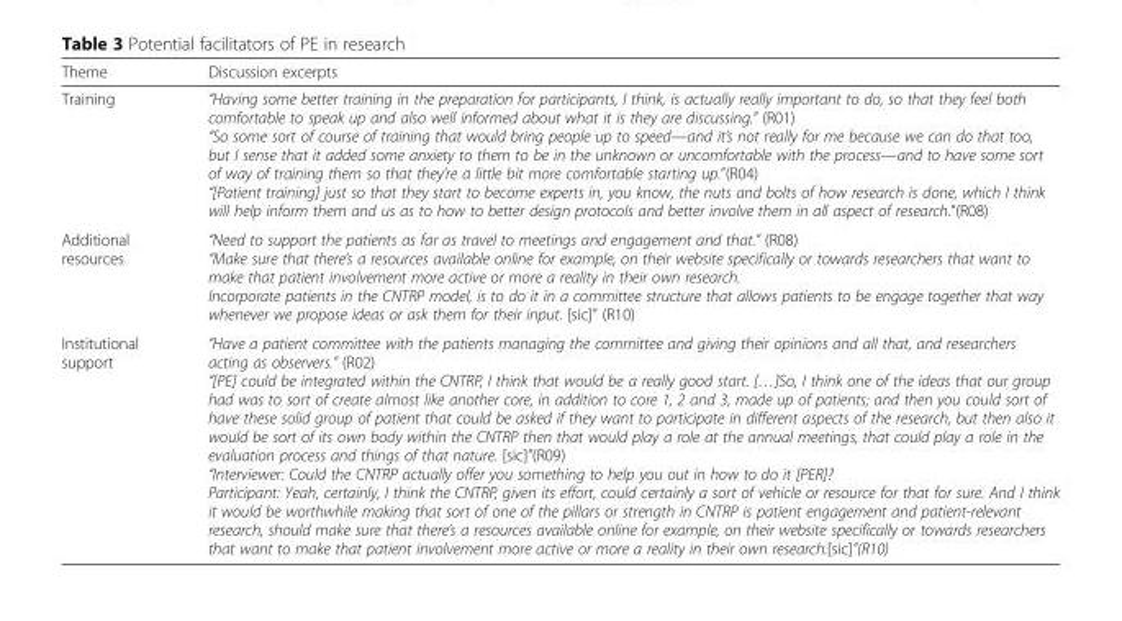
<table><thead><tr><td>Theme</td><td>Discussion excerpts</td></tr></thead><tbody><tr><td>Training</td><td>“Having some better training in the preparation for participants, I think, is actually really important to do, so that they feel both comfortable to speak up and also well informed about what it is they are discussing.” (R01) “So some sort of course of training that would bring people up to speed—and it’s not really for me because we can do that too, but I sense that it added some anxiety to them to be in the unknown or uncomfortable with the process—and to have some sort of way of training them so that they’re a little bit more comfortable starting up.”(R04) “[Patient training] just so that they start to become experts in, you know, the nuts and bolts of how research is done, which I think will help inform them and us as to how to better design protocols and better involve them in all aspect of research.”(R08)</td></tr><tr><td>Additional resources</td><td>“Need to support the patients as far as travel to meetings and engagement and that.” (R08) “Make sure that there’s a resources available online for example, on their website specifically or towards researchers that want to make that patient involvement more active or more a reality in their own research. Incorporate patients in the CNTRP model, is to do it in a committee structure that allows patients to be engage together that way whenever we propose ideas or ask them for their input. [sic]” (R10)</td></tr><tr><td>Institutional support</td><td>“Have a patient committee with the patients managing the committee and giving their opinions and all that, and researchers acting as observers.” (R02) “[PE] could be integrated within the CNTRP, I think that would be a really good start. […]So, I think one of the ideas that our group had was to sort of create almost like another core, in addition to core 1, 2 and 3, made up of patients; and then you could sort of have these solid group of patient that could be asked if they want to participate in different aspects of the research, but then also it would be sort of its own body within the CNTRP then that would play a role at the annual meetings, that could play a role in the evaluation process and things of that nature. [sic]”(R09) “Interviewer: Could the CNTRP actually offer you something to help you out in how to do it [PER]? Participant: Yeah, certainly, I think the CNTRP, given its effort, could certainly a sort of vehicle or resource for that for sure. And I think it would be worthwhile making that sort of one of the pillars or strength in CNTRP is patient engagement and patient-relevant research, should make sure that there’s a resources available online for example, on their website specifically or towards researchers that want to make that patient involvement more active or more a reality in their own research.[sic]”(R10)</td></tr></tbody></table>